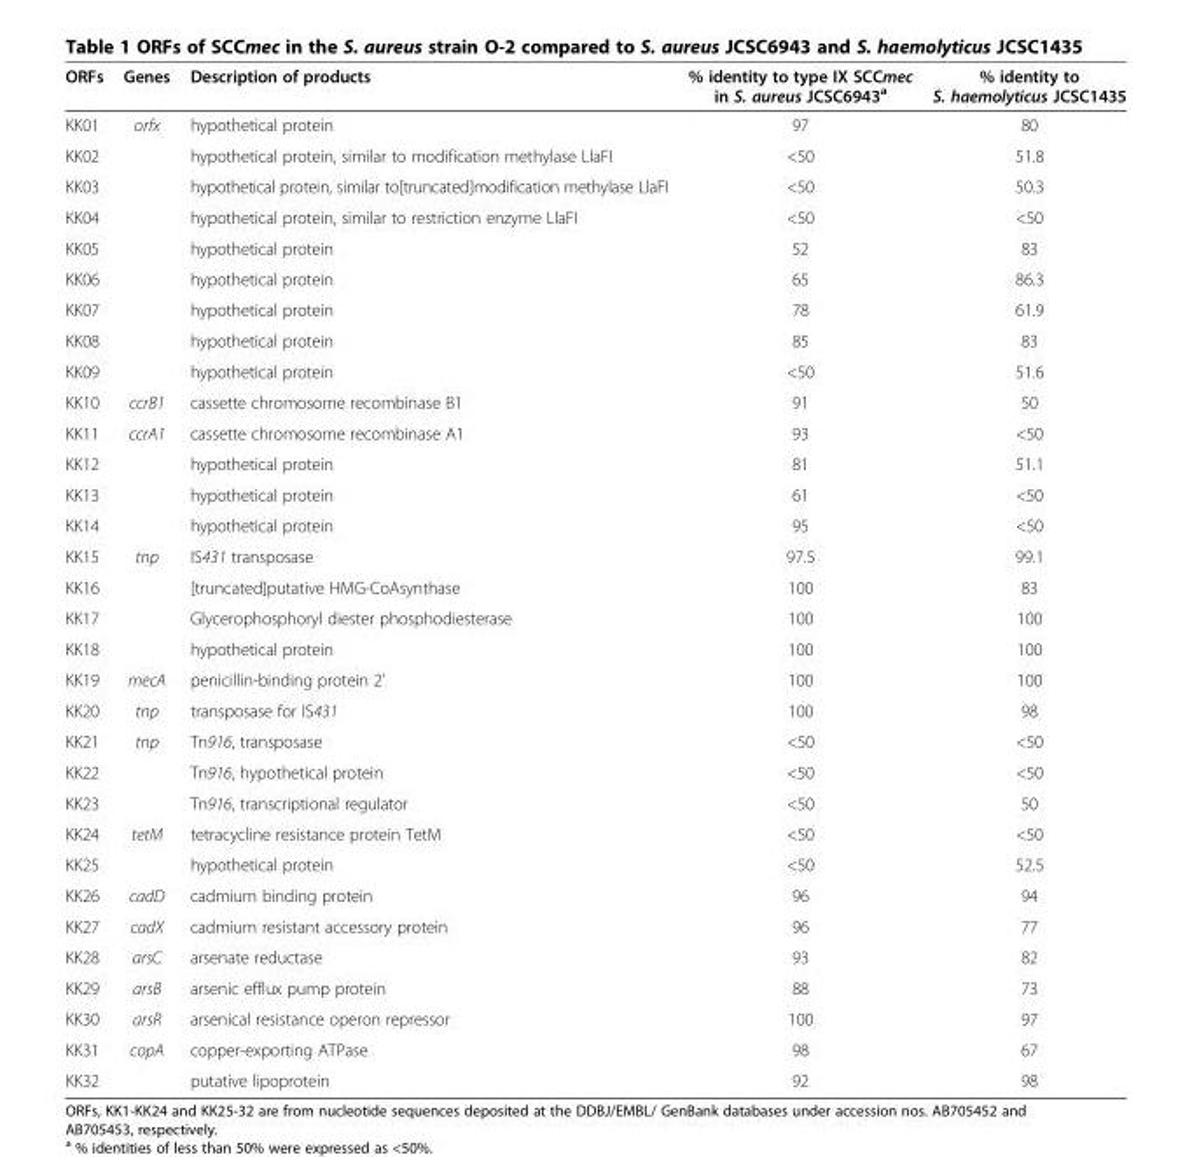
<table><thead><tr><td>ORFs</td><td>Genes</td><td>Description of products</td><td>% identity to type IX SCCmec in S. aureus JCSC6943<sup>a</sup></td><td>% identity to S. haemolyticus JCSC1435</td></tr></thead><tbody><tr><td>KK01</td><td>orfx</td><td>hypothetical protein</td><td>97</td><td>80</td></tr><tr><td>KK02</td><td></td><td>hypothetical protein, similar to modification methylase LlaFI</td><td>&lt;50</td><td>51.8</td></tr><tr><td>KK03</td><td></td><td>hypothetical protein, similar to[truncated]modification methylase LlaFI</td><td>&lt;50</td><td>50.3</td></tr><tr><td>KK04</td><td></td><td>hypothetical protein, similar to restriction enzyme LlaFI</td><td>&lt;50</td><td>&lt;50</td></tr><tr><td>KK05</td><td></td><td>hypothetical protein</td><td>52</td><td>83</td></tr><tr><td>KK06</td><td></td><td>hypothetical protein</td><td>65</td><td>86.3</td></tr><tr><td>KK07</td><td></td><td>hypothetical protein</td><td>78</td><td>61.9</td></tr><tr><td>KK08</td><td></td><td>hypothetical protein</td><td>85</td><td>83</td></tr><tr><td>KK09</td><td></td><td>hypothetical protein</td><td>&lt;50</td><td>51.6</td></tr><tr><td>KK10</td><td>ccrB1</td><td>cassette chromosome recombinase B1</td><td>91</td><td>50</td></tr><tr><td>KK11</td><td>ccrA1</td><td>cassette chromosome recombinase A1</td><td>93</td><td>&lt;50</td></tr><tr><td>KK12</td><td></td><td>hypothetical protein</td><td>81</td><td>51.1</td></tr><tr><td>KK13</td><td></td><td>hypothetical protein</td><td>61</td><td>&lt;50</td></tr><tr><td>KK14</td><td></td><td>hypothetical protein</td><td>95</td><td>&lt;50</td></tr><tr><td>KK15</td><td>tnp</td><td>IS431 transposase</td><td>97.5</td><td>99.1</td></tr><tr><td>KK16</td><td></td><td>[truncated]putative HMG-CoAsynthase</td><td>100</td><td>83</td></tr><tr><td>KK17</td><td></td><td>Glycerophosphoryl diester phosphodiesterase</td><td>100</td><td>100</td></tr><tr><td>KK18</td><td></td><td>hypothetical protein</td><td>100</td><td>100</td></tr><tr><td>KK19</td><td>mecA</td><td>penicillin-binding protein 2&#x27;</td><td>100</td><td>100</td></tr><tr><td>KK20</td><td>tnp</td><td>transposase for IS431</td><td>100</td><td>98</td></tr><tr><td>KK21</td><td>tnp</td><td>Tn916, transposase</td><td>&lt;50</td><td>&lt;50</td></tr><tr><td>KK22</td><td></td><td>Tn916, hypothetical protein</td><td>&lt;50</td><td>&lt;50</td></tr><tr><td>KK23</td><td></td><td>Tn916, transcriptional regulator</td><td>&lt;50</td><td>50</td></tr><tr><td>KK24</td><td>tetM</td><td>tetracycline resistance protein TetM</td><td>&lt;50</td><td>&lt;50</td></tr><tr><td>KK25</td><td></td><td>hypothetical protein</td><td>&lt;50</td><td>52.5</td></tr><tr><td>KK26</td><td>cadD</td><td>cadmium binding protein</td><td>96</td><td>94</td></tr><tr><td>KK27</td><td>cadX</td><td>cadmium resistant accessory protein</td><td>96</td><td>77</td></tr><tr><td>KK28</td><td>arsC</td><td>arsenate reductase</td><td>93</td><td>82</td></tr><tr><td>KK29</td><td>arsB</td><td>arsenic efflux pump protein</td><td>88</td><td>73</td></tr><tr><td>KK30</td><td>arsR</td><td>arsenical resistance operon repressor</td><td>100</td><td>97</td></tr><tr><td>KK31</td><td>copA</td><td>copper-exporting ATPase</td><td>98</td><td>67</td></tr><tr><td>KK32</td><td></td><td>putative lipoprotein</td><td>92</td><td>98</td></tr></tbody></table>